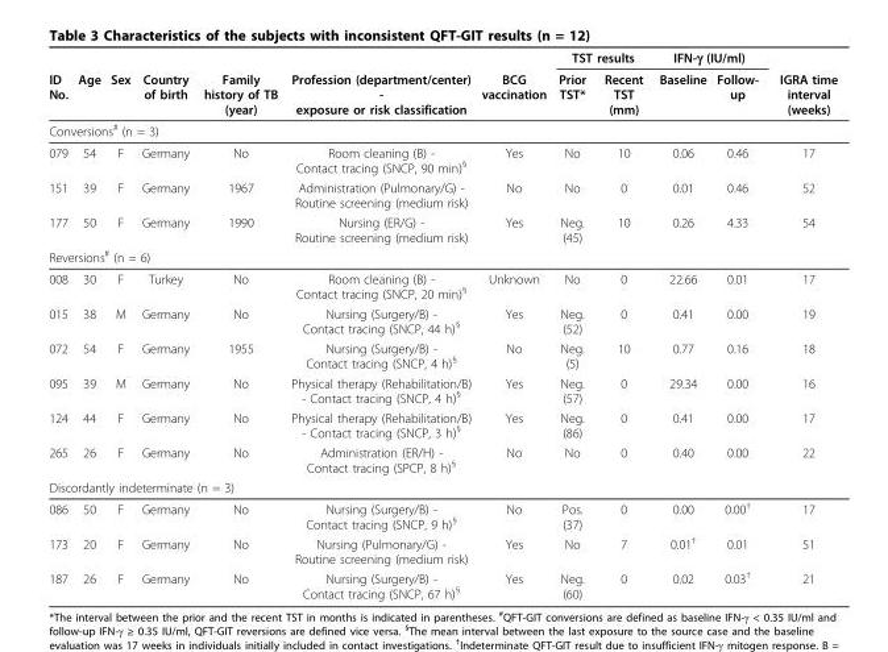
<table><thead><tr><td rowspan="2">ID No.</td><td rowspan="2">Age</td><td rowspan="2">Sex</td><td rowspan="2">Country of birth</td><td rowspan="2">Family history of TB (year)</td><td rowspan="2">Profession (department/center) - exposure or risk classification</td><td rowspan="2">BCG vaccination</td><td colspan="2">TST results</td><td colspan="2">IFN-γ (IU/ml)</td><td rowspan="2">IGRA time interval (weeks)</td></tr><tr><td>Prior TST*</td><td>Recent TST (mm)</td><td>Baseline</td><td>Follow- up</td></tr></thead><tbody><tr><td colspan="12">Conversions<sup>#</sup> (n = 3)</td></tr><tr><td>079</td><td>54</td><td>F</td><td>Germany</td><td>No</td><td>Room cleaning (B) - Contact tracing (SNCP, 90 min)<sup>§</sup></td><td>Yes</td><td>No</td><td>10</td><td>0.06</td><td>0.46</td><td>17</td></tr><tr><td>151</td><td>39</td><td>F</td><td>Germany</td><td>1967</td><td>Administration (Pulmonary/G) - Routine screening (medium risk)</td><td>No</td><td>No</td><td>0</td><td>0.01</td><td>0.46</td><td>52</td></tr><tr><td>177</td><td>50</td><td>F</td><td>Germany</td><td>1990</td><td>Nursing (ER/G) - Routine screening (medium risk)</td><td>Yes</td><td>Neg. (45)</td><td>10</td><td>0.26</td><td>4.33</td><td>54</td></tr><tr><td colspan="12">Reversions<sup>#</sup> (n = 6)</td></tr><tr><td>008</td><td>30</td><td>F</td><td>Turkey</td><td>No</td><td>Room cleaning (B) - Contact tracing (SNCP, 20 min)<sup>§</sup></td><td>Unknown</td><td>No</td><td>0</td><td>22.66</td><td>0.01</td><td>17</td></tr><tr><td>015</td><td>38</td><td>M</td><td>Germany</td><td>No</td><td>Nursing (Surgery/B) - Contact tracing (SNCP, 44 h)<sup>§</sup></td><td>Yes</td><td>Neg. (52)</td><td>0</td><td>0.41</td><td>0.00</td><td>19</td></tr><tr><td>072</td><td>54</td><td>F</td><td>Germany</td><td>1955</td><td>Nursing (Surgery/B) - Contact tracing (SNCP, 4 h)<sup>§</sup></td><td>No</td><td>Neg. (5)</td><td>10</td><td>0.77</td><td>0.16</td><td>18</td></tr><tr><td>095</td><td>39</td><td>M</td><td>Germany</td><td>No</td><td>Physical therapy (Rehabilitation/B) - Contact tracing (SNCP, 4 h)<sup>§</sup></td><td>Yes</td><td>Neg. (57)</td><td>0</td><td>29.34</td><td>0.00</td><td>16</td></tr><tr><td>124</td><td>44</td><td>F</td><td>Germany</td><td>No</td><td>Physical therapy (Rehabilitation/B) - Contact tracing (SNCP, 3 h)<sup>§</sup></td><td>Yes</td><td>Neg. (86)</td><td>0</td><td>0.41</td><td>0.00</td><td>17</td></tr><tr><td>265</td><td>26</td><td>F</td><td>Germany</td><td>No</td><td>Administration (ER/H) - Contact tracing (SPCP, 8 h)<sup>§</sup></td><td>No</td><td>No</td><td>0</td><td>0.40</td><td>0.00</td><td>22</td></tr><tr><td colspan="12">Discordantly indeterminate (n = 3)</td></tr><tr><td>086</td><td>50</td><td>F</td><td>Germany</td><td>No</td><td>Nursing (Surgery/B) - Contact tracing (SNCP, 9 h)<sup>§</sup></td><td>No</td><td>Pos. (37)</td><td>0</td><td>0.00</td><td>0.00<sup>†</sup></td><td>17</td></tr><tr><td>173</td><td>20</td><td>F</td><td>Germany</td><td>No</td><td>Nursing (Pulmonary/G) - Routine screening (medium risk)</td><td>Yes</td><td>No</td><td>7</td><td>0.01<sup>†</sup></td><td>0.01</td><td>51</td></tr><tr><td>187</td><td>26</td><td>F</td><td>Germany</td><td>No</td><td>Nursing (Surgery/B) - Contact tracing (SNCP, 67 h)<sup>§</sup></td><td>Yes</td><td>Neg. (60)</td><td>0</td><td>0.02</td><td>0.03<sup>†</sup></td><td>21</td></tr></tbody></table>